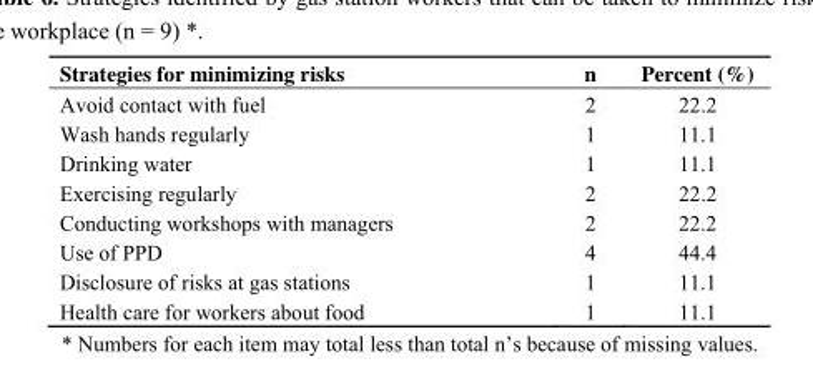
<table><thead><tr><td>Strategies for minimizing risks</td><td>n</td><td>Percent (%)</td></tr></thead><tbody><tr><td>Avoid contact with fuel</td><td>2</td><td>22.2</td></tr><tr><td>Wash hands regularly</td><td>1</td><td>11.1</td></tr><tr><td>Drinking water</td><td>1</td><td>11.1</td></tr><tr><td>Exercising regularly</td><td>2</td><td>22.2</td></tr><tr><td>Conducting workshops with managers</td><td>2</td><td>22.2</td></tr><tr><td>Use of PPD</td><td>4</td><td>44.4</td></tr><tr><td>Disclosure of risks at gas stations</td><td>1</td><td>11.1</td></tr><tr><td>Health care for workers about food</td><td>1</td><td>11.1</td></tr></tbody></table>